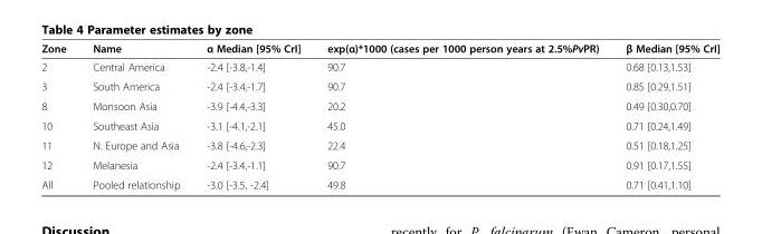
<table><thead><tr><td>Zone</td><td>Name</td><td>α Median [95% CrI]</td><td>exp(α)*1000 (cases per 1000 person years at 2.5%PvPR)</td><td>β Median [95% CrI]</td></tr></thead><tbody><tr><td>2</td><td>Central America</td><td>-2.4 [-3.8,-1.4]</td><td>90.7</td><td>0.68 [0.13,1.53]</td></tr><tr><td>3</td><td>South America</td><td>-2.4 [-3.4,-1.7]</td><td>90.7</td><td>0.85 [0.29,1.51]</td></tr><tr><td>8</td><td>Monsoon Asia</td><td>-3.9 [-4.4,-3.3]</td><td>20.2</td><td>0.49 [0.30,0.70]</td></tr><tr><td>10</td><td>Southeast Asia</td><td>-3.1 [-4.1,-2.1]</td><td>45.0</td><td>0.71 [0.24,1.49]</td></tr><tr><td>11</td><td>N. Europe and Asia</td><td>-3.8 [-4.6,-2.3]</td><td>22.4</td><td>0.51 [0.18,1.25]</td></tr><tr><td>12</td><td>Melanesia</td><td>-2.4 [-3.4,-1.1]</td><td>90.7</td><td>0.91 [0.17,1.55]</td></tr><tr><td>All</td><td>Pooled relationship</td><td>-3.0 [-3.5, -2.4]</td><td>49.8</td><td>0.71 [0.41,1.10]</td></tr></tbody></table>